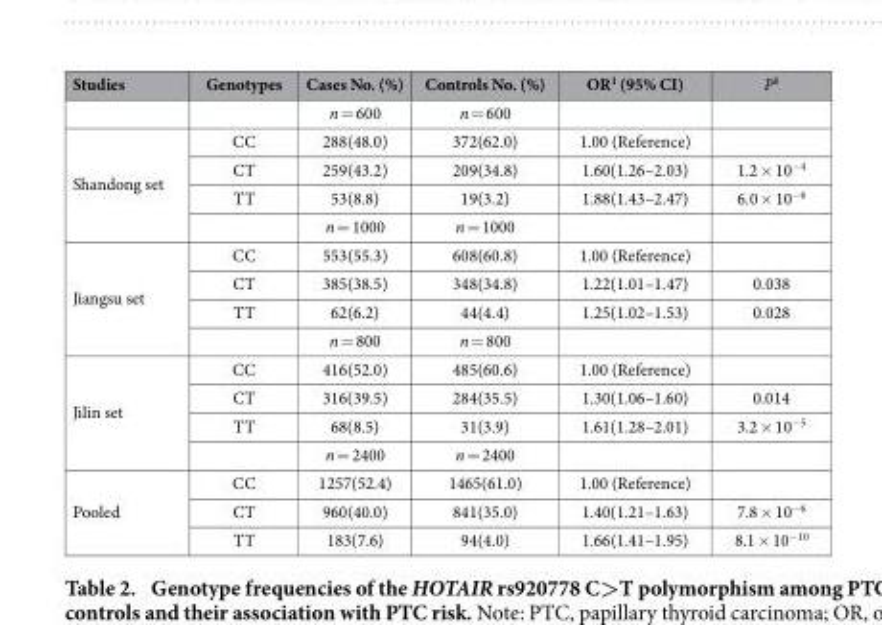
<table><thead><tr><td>Studies</td><td>Genotypes</td><td>Cases No. (%)</td><td>Controls No. (%)</td><td>OR<sup>1</sup> (95% CI)</td><td>P<sup>1</sup></td></tr></thead><tbody><tr><td></td><td></td><td>n = 600</td><td>n = 600</td><td></td><td></td></tr><tr><td rowspan="4">Shandong set</td><td>CC</td><td>288(48.0)</td><td>372(62.0)</td><td>1.00 (Reference)</td><td></td></tr><tr><td>CT</td><td>259(43.2)</td><td>209(34.8)</td><td>1.60(1.26–2.03)</td><td>1.2 × 10<sup>−4</sup></td></tr><tr><td>TT</td><td>53(8.8)</td><td>19(3.2)</td><td>1.88(1.43–2.47)</td><td>6.0 × 10<sup>−6</sup></td></tr><tr><td></td><td>n = 1000</td><td>n = 1000</td><td></td><td></td></tr><tr><td rowspan="4">Jiangsu set</td><td>CC</td><td>553(55.3)</td><td>608(60.8)</td><td>1.00 (Reference)</td><td></td></tr><tr><td>CT</td><td>385(38.5)</td><td>348(34.8)</td><td>1.22(1.01–1.47)</td><td>0.038</td></tr><tr><td>TT</td><td>62(6.2)</td><td>44(4.4)</td><td>1.25(1.02–1.53)</td><td>0.028</td></tr><tr><td></td><td>n = 800</td><td>n = 800</td><td></td><td></td></tr><tr><td rowspan="4">Jilin set</td><td>CC</td><td>416(52.0)</td><td>485(60.6)</td><td>1.00 (Reference)</td><td></td></tr><tr><td>CT</td><td>316(39.5)</td><td>284(35.5)</td><td>1.30(1.06–1.60)</td><td>0.014</td></tr><tr><td>TT</td><td>68(8.5)</td><td>31(3.9)</td><td>1.61(1.28–2.01)</td><td>3.2 × 10<sup>−5</sup></td></tr><tr><td></td><td>n = 2400</td><td>n = 2400</td><td></td><td></td></tr><tr><td rowspan="3">Pooled</td><td>CC</td><td>1257(52.4)</td><td>1465(61.0)</td><td>1.00 (Reference)</td><td></td></tr><tr><td>CT</td><td>960(40.0)</td><td>841(35.0)</td><td>1.40(1.21–1.63)</td><td>7.8 × 10<sup>−6</sup></td></tr><tr><td>TT</td><td>183(7.6)</td><td>94(4.0)</td><td>1.66(1.41–1.95)</td><td>8.1 × 10<sup>−</sup>1<sup>0</sup></td></tr></tbody></table>